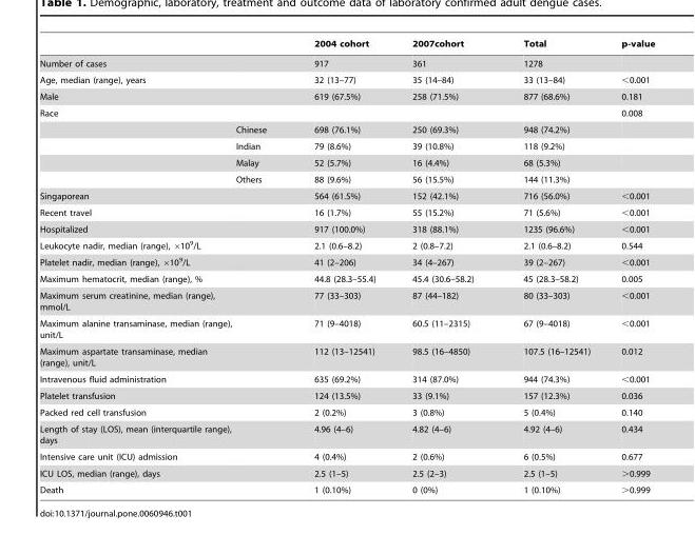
<table><thead><tr><td></td><td></td><td>2004 cohort</td><td>2007cohort</td><td>Total</td><td>p-value</td></tr></thead><tbody><tr><td>Number of cases</td><td></td><td>917</td><td>361</td><td>1278</td><td></td></tr><tr><td>Age, median (range), years</td><td></td><td>32 (13–77)</td><td>35 (14–84)</td><td>33 (13–84)</td><td>&lt;0.001</td></tr><tr><td>Male</td><td></td><td>619 (67.5%)</td><td>258 (71.5%)</td><td>877 (68.6%)</td><td>0.181</td></tr><tr><td rowspan="5">Race</td><td></td><td></td><td></td><td></td><td>0.008</td></tr><tr><td>Chinese</td><td>698 (76.1%)</td><td>250 (69.3%)</td><td>948 (74.2%)</td><td></td></tr><tr><td>Indian</td><td>79 (8.6%)</td><td>39 (10.8%)</td><td>118 (9.2%)</td><td></td></tr><tr><td>Malay</td><td>52 (5.7%)</td><td>16 (4.4%)</td><td>68 (5.3%)</td><td></td></tr><tr><td>Others</td><td>88 (9.6%)</td><td>56 (15.5%)</td><td>144 (11.3%)</td><td></td></tr><tr><td>Singaporean</td><td></td><td>564 (61.5%)</td><td>152 (42.1%)</td><td>716 (56.0%)</td><td>&lt;0.001</td></tr><tr><td>Recent travel</td><td></td><td>16 (1.7%)</td><td>55 (15.2%)</td><td>71 (5.6%)</td><td>&lt;0.001</td></tr><tr><td>Hospitalized</td><td></td><td>917 (100.0%)</td><td>318 (88.1%)</td><td>1235 (96.6%)</td><td>&lt;0.001</td></tr><tr><td>Leukocyte nadir, median (range), ×10<sup>9</sup>/L</td><td></td><td>2.1 (0.6–8.2)</td><td>2 (0.8–7.2)</td><td>2.1 (0.6–8.2)</td><td>0.544</td></tr><tr><td>Platelet nadir, median (range), ×10<sup>9</sup>/L</td><td></td><td>41 (2–206)</td><td>34 (4–267)</td><td>39 (2–267)</td><td>&lt;0.001</td></tr><tr><td>Maximum hematocrit, median (range), %</td><td></td><td>44.8 (28.3–55.4)</td><td>45.4 (30.6–58.2)</td><td>45 (28.3–58.2)</td><td>0.005</td></tr><tr><td>Maximum serum creatinine, median (range), mmol/L</td><td></td><td>77 (33–303)</td><td>87 (44–182)</td><td>80 (33–303)</td><td>&lt;0.001</td></tr><tr><td>Maximum alanine transaminase, median (range), unit/L</td><td></td><td>71 (9–4018)</td><td>60.5 (11–2315)</td><td>67 (9–4018)</td><td>&lt;0.001</td></tr><tr><td>Maximum aspartate transaminase, median (range), unit/L</td><td></td><td>112 (13–12541)</td><td>98.5 (16–4850)</td><td>107.5 (16–12541)</td><td>0.012</td></tr><tr><td>Intravenous fluid administration</td><td></td><td>635 (69.2%)</td><td>314 (87.0%)</td><td>944 (74.3%)</td><td>&lt;0.001</td></tr><tr><td>Platelet transfusion</td><td></td><td>124 (13.5%)</td><td>33 (9.1%)</td><td>157 (12.3%)</td><td>0.036</td></tr><tr><td>Packed red cell transfusion</td><td></td><td>2 (0.2%)</td><td>3 (0.8%)</td><td>5 (0.4%)</td><td>0.140</td></tr><tr><td>Length of stay (LOS), mean (interquartile range), days</td><td></td><td>4.96 (4–6)</td><td>4.82 (4–6)</td><td>4.92 (4–6)</td><td>0.434</td></tr><tr><td>Intensive care unit (ICU) admission</td><td></td><td>4 (0.4%)</td><td>2 (0.6%)</td><td>6 (0.5%)</td><td>0.677</td></tr><tr><td>ICU LOS, median (range), days</td><td></td><td>2.5 (1–5)</td><td>2.5 (2–3)</td><td>2.5 (1–5)</td><td>&gt;0.999</td></tr><tr><td>Death</td><td></td><td>1 (0.10%)</td><td>0 (0%)</td><td>1 (0.10%)</td><td>&gt;0.999</td></tr></tbody></table>